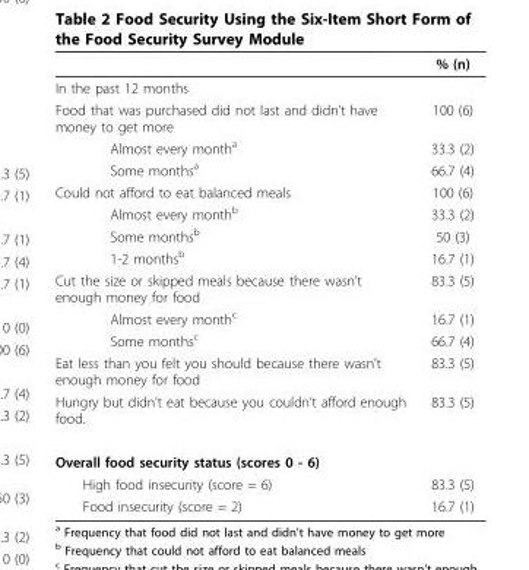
<table><thead><tr><td></td><td>% (n)</td></tr></thead><tbody><tr><td colspan="2">In the past 12 months</td></tr><tr><td>Food that was purchased did not last and didn’t have money to get more</td><td>100 (6)</td></tr><tr><td>Almost every month<sup>a</sup></td><td>33.3 (2)</td></tr><tr><td>Some months<sup>a</sup></td><td>66.7 (4)</td></tr><tr><td>Could not afford to eat balanced meals</td><td>100 (6)</td></tr><tr><td>Almost every month<sup>b</sup></td><td>33.3 (2)</td></tr><tr><td>Some months<sup>b</sup></td><td>50 (3)</td></tr><tr><td>1-2 months<sup>b</sup></td><td>16.7 (1)</td></tr><tr><td>Cut the size or skipped meals because there wasn’t enough money for food</td><td>83.3 (5)</td></tr><tr><td>Almost every month<sup>c</sup></td><td>16.7 (1)</td></tr><tr><td>Some months<sup>c</sup></td><td>66.7 (4)</td></tr><tr><td>Eat less than you felt you should because there wasn’t enough money for food</td><td>83.3 (5)</td></tr><tr><td>Hungry but didn’t eat because you couldn’t afford enough food.</td><td>83.3 (5)</td></tr><tr><td colspan="2">Overall food security status (scores 0 - 6)</td></tr><tr><td>High food insecurity (score = 6)</td><td>83.3 (5)</td></tr><tr><td>Food insecurity (score = 2)</td><td>16.7 (1)</td></tr></tbody></table>